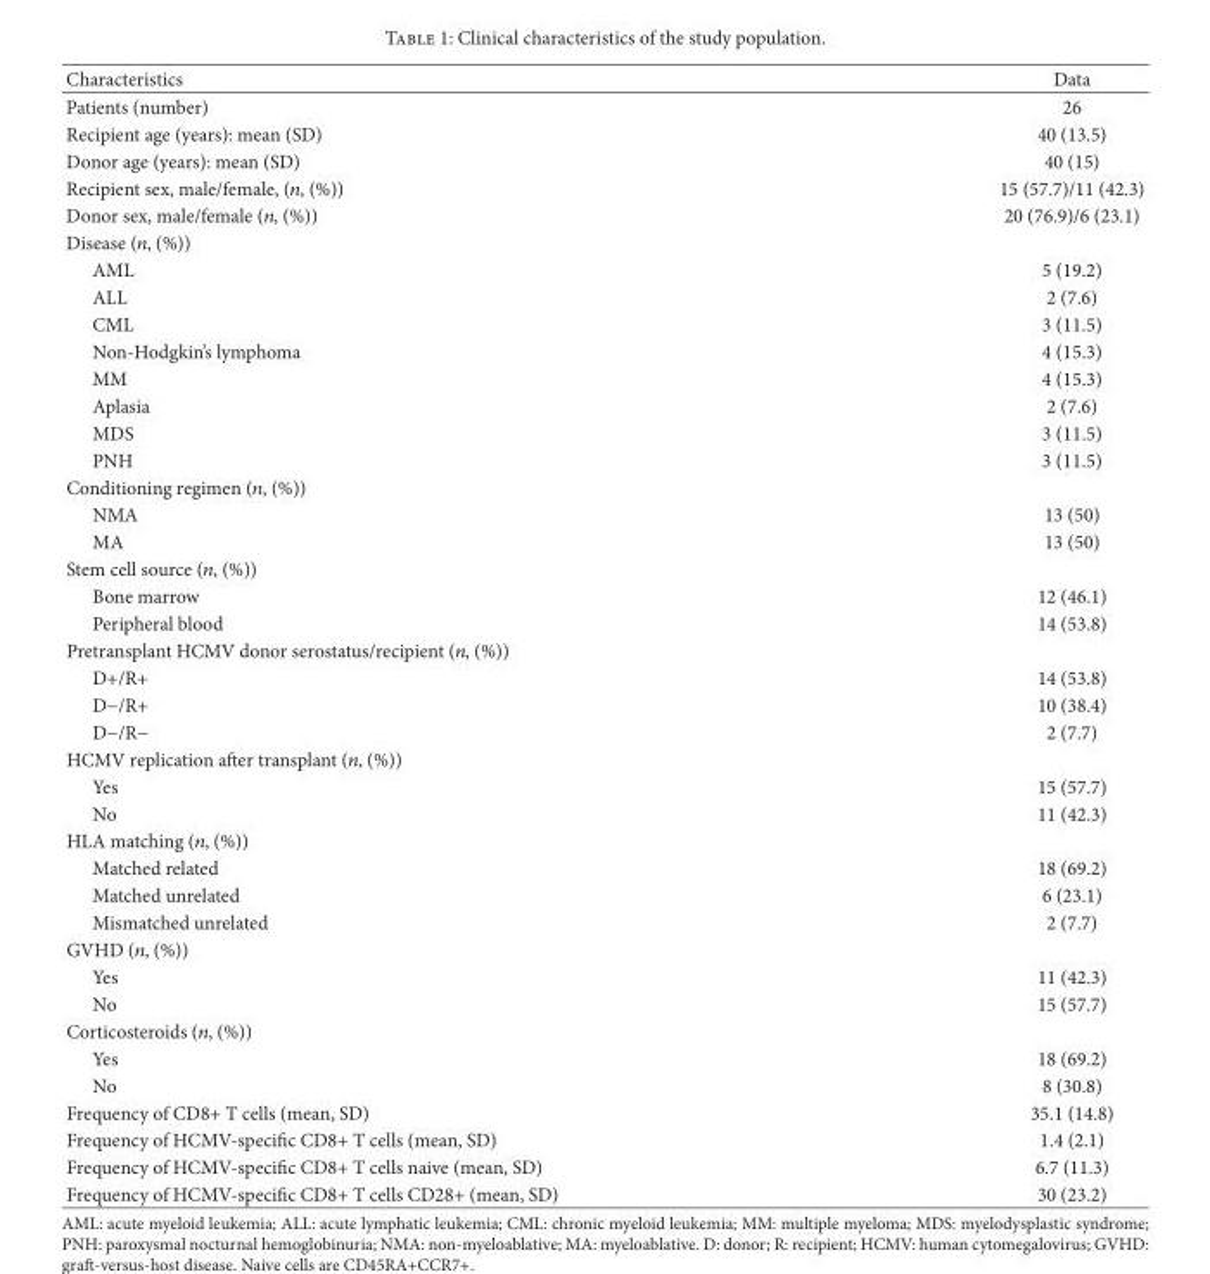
<table><thead><tr><td>Characteristics</td><td>Data</td></tr></thead><tbody><tr><td>Patients (number)</td><td>26</td></tr><tr><td>Recipient age (years): mean (SD)</td><td>40 (13.5)</td></tr><tr><td>Donor age (years): mean (SD)</td><td>40 (15)</td></tr><tr><td>Recipient sex, male/female, (𝑛𝑛, (%))</td><td>15 (57.7)/11 (42.3)</td></tr><tr><td>Donor sex, male/female (𝑛𝑛, (%))</td><td>20 (76.9)/6 (23.1)</td></tr><tr><td colspan="2">Disease (𝑛𝑛, (%))</td></tr><tr><td>AML</td><td>5 (19.2)</td></tr><tr><td>ALL</td><td>2 (7.6)</td></tr><tr><td>CML</td><td>3 (11.5)</td></tr><tr><td>Non-Hodgkin’s lymphoma</td><td>4 (15.3)</td></tr><tr><td>MM</td><td>4 (15.3)</td></tr><tr><td>Aplasia</td><td>2 (7.6)</td></tr><tr><td>MDS</td><td>3 (11.5)</td></tr><tr><td>PNH</td><td>3 (11.5)</td></tr><tr><td colspan="2">Conditioning regimen (𝑛𝑛, (%))</td></tr><tr><td>NMA</td><td>13 (50)</td></tr><tr><td>MA</td><td>13 (50)</td></tr><tr><td colspan="2">Stem cell source (𝑛𝑛, (%))</td></tr><tr><td>Bone marrow</td><td>12 (46.1)</td></tr><tr><td>Peripheral blood</td><td>14 (53.8)</td></tr><tr><td colspan="2">Pretransplant HCMV donor serostatus/recipient (𝑛𝑛, (%))</td></tr><tr><td>D+/R+</td><td>14 (53.8)</td></tr><tr><td>D−/R+</td><td>10 (38.4)</td></tr><tr><td>D−/R−</td><td>2 (7.7)</td></tr><tr><td colspan="2">HCMV replication aer transplant (𝑛𝑛, (%))</td></tr><tr><td>Yes</td><td>15 (57.7)</td></tr><tr><td>No</td><td>11 (42.3)</td></tr><tr><td colspan="2">HLA matching (𝑛𝑛, (%))</td></tr><tr><td>Matched related</td><td>18 (69.2)</td></tr><tr><td>Matched unrelated</td><td>6 (23.1)</td></tr><tr><td>Mismatched unrelated</td><td>2 (7.7)</td></tr><tr><td colspan="2">GVHD (𝑛𝑛, (%))</td></tr><tr><td>Yes</td><td>11 (42.3)</td></tr><tr><td>No</td><td>15 (57.7)</td></tr><tr><td colspan="2">Corticosteroids (𝑛𝑛, (%))</td></tr><tr><td>Yes</td><td>18 (69.2)</td></tr><tr><td>No</td><td>8 (30.8)</td></tr><tr><td>Frequency of CD8+ T cells (mean, SD)</td><td>35.1 (14.8)</td></tr><tr><td>Frequency of HCMV-speci�c CD8+ T cells (mean, SD)</td><td>1.4 (2.1)</td></tr><tr><td>Frequency of HCMV-speci�c CD8+ T cells naive (mean, SD)</td><td>6.7 (11.3)</td></tr><tr><td>Frequency of HCMV-speci�c CD8+ T cells CD28+ (mean, SD)</td><td>30 (23.2)</td></tr></tbody></table>